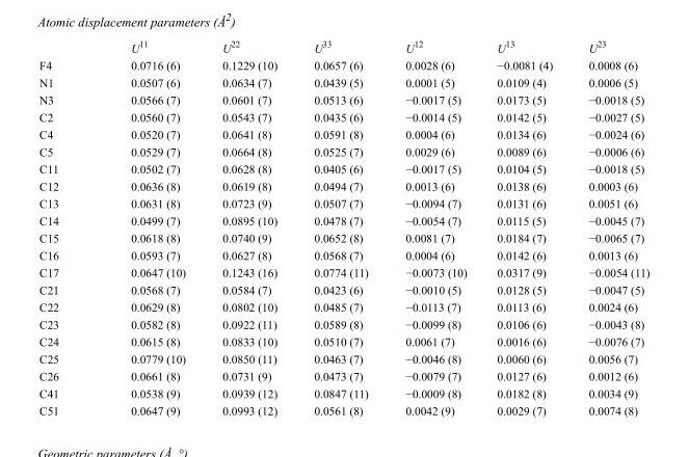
<table><thead><tr><td></td><td>U<sup>11</sup></td><td>U<sup>22</sup></td><td>U<sup>33</sup></td><td>U<sup>12</sup></td><td>U<sup>13</sup></td><td>U<sup>23</sup></td></tr></thead><tbody><tr><td>F4</td><td>0.0716 (6)</td><td>0.1229 (10)</td><td>0.0657 (6)</td><td>0.0028 (6)</td><td>−0.0081 (4)</td><td>0.0008 (6)</td></tr><tr><td>N1</td><td>0.0507 (6)</td><td>0.0634 (7)</td><td>0.0439 (5)</td><td>0.0001 (5)</td><td>0.0109 (4)</td><td>0.0006 (5)</td></tr><tr><td>N3</td><td>0.0566 (7)</td><td>0.0601 (7)</td><td>0.0513 (6)</td><td>−0.0017 (5)</td><td>0.0173 (5)</td><td>−0.0018 (5)</td></tr><tr><td>C2</td><td>0.0560 (7)</td><td>0.0543 (7)</td><td>0.0435 (6)</td><td>−0.0014 (5)</td><td>0.0142 (5)</td><td>−0.0027 (5)</td></tr><tr><td>C4</td><td>0.0520 (7)</td><td>0.0641 (8)</td><td>0.0591 (8)</td><td>0.0004 (6)</td><td>0.0134 (6)</td><td>−0.0024 (6)</td></tr><tr><td>C5</td><td>0.0529 (7)</td><td>0.0664 (8)</td><td>0.0525 (7)</td><td>0.0029 (6)</td><td>0.0089 (6)</td><td>−0.0006 (6)</td></tr><tr><td>C11</td><td>0.0502 (7)</td><td>0.0628 (8)</td><td>0.0405 (6)</td><td>−0.0017 (5)</td><td>0.0104 (5)</td><td>−0.0018 (5)</td></tr><tr><td>C12</td><td>0.0636 (8)</td><td>0.0619 (8)</td><td>0.0494 (7)</td><td>0.0013 (6)</td><td>0.0138 (6)</td><td>0.0003 (6)</td></tr><tr><td>C13</td><td>0.0631 (8)</td><td>0.0723 (9)</td><td>0.0507 (7)</td><td>−0.0094 (7)</td><td>0.0131 (6)</td><td>0.0051 (6)</td></tr><tr><td>C14</td><td>0.0499 (7)</td><td>0.0895 (10)</td><td>0.0478 (7)</td><td>−0.0054 (7)</td><td>0.0115 (5)</td><td>−0.0045 (7)</td></tr><tr><td>C15</td><td>0.0618 (8)</td><td>0.0740 (9)</td><td>0.0652 (8)</td><td>0.0081 (7)</td><td>0.0184 (7)</td><td>−0.0065 (7)</td></tr><tr><td>C16</td><td>0.0593 (7)</td><td>0.0627 (8)</td><td>0.0568 (7)</td><td>0.0004 (6)</td><td>0.0142 (6)</td><td>0.0013 (6)</td></tr><tr><td>C17</td><td>0.0647 (10)</td><td>0.1243 (16)</td><td>0.0774 (11)</td><td>−0.0073 (10)</td><td>0.0317 (9)</td><td>−0.0054 (11)</td></tr><tr><td>C21</td><td>0.0568 (7)</td><td>0.0584 (7)</td><td>0.0423 (6)</td><td>−0.0010 (5)</td><td>0.0128 (5)</td><td>−0.0047 (5)</td></tr><tr><td>C22</td><td>0.0629 (8)</td><td>0.0802 (10)</td><td>0.0485 (7)</td><td>−0.0113 (7)</td><td>0.0113 (6)</td><td>0.0024 (6)</td></tr><tr><td>C23</td><td>0.0582 (8)</td><td>0.0922 (11)</td><td>0.0589 (8)</td><td>−0.0099 (8)</td><td>0.0106 (6)</td><td>−0.0043 (8)</td></tr><tr><td>C24</td><td>0.0615 (8)</td><td>0.0833 (10)</td><td>0.0510 (7)</td><td>0.0061 (7)</td><td>0.0016 (6)</td><td>−0.0076 (7)</td></tr><tr><td>C25</td><td>0.0779 (10)</td><td>0.0850 (11)</td><td>0.0463 (7)</td><td>−0.0046 (8)</td><td>0.0060 (6)</td><td>0.0056 (7)</td></tr><tr><td>C26</td><td>0.0661 (8)</td><td>0.0731 (9)</td><td>0.0473 (7)</td><td>−0.0079 (7)</td><td>0.0127 (6)</td><td>0.0012 (6)</td></tr><tr><td>C41</td><td>0.0538 (9)</td><td>0.0939 (12)</td><td>0.0847 (11)</td><td>−0.0009 (8)</td><td>0.0182 (8)</td><td>0.0034 (9)</td></tr><tr><td>C51</td><td>0.0647 (9)</td><td>0.0993 (12)</td><td>0.0561 (8)</td><td>0.0042 (9)</td><td>0.0029 (7)</td><td>0.0074 (8)</td></tr></tbody></table>